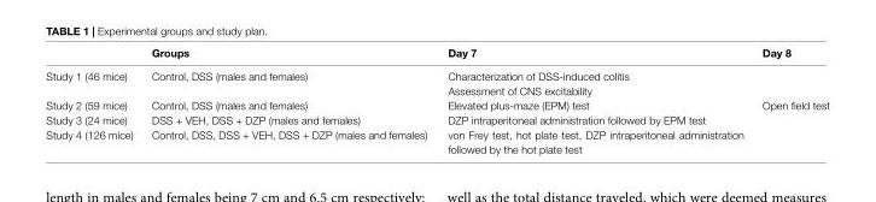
<table><thead><tr><td></td><td>Groups</td><td>Day 7</td><td>Day 8</td></tr></thead><tbody><tr><td rowspan="2">Study 1 (46 mice)</td><td>Control, DSS (males and females)</td><td>Characterization of DSS-induced colitis</td><td></td></tr><tr><td></td><td>Assessment of CNS excitability</td><td></td></tr><tr><td>Study 2 (59 mice)</td><td>Control, DSS (males and females)</td><td>Elevated plus-maze (EPM) test</td><td>Open field test</td></tr><tr><td>Study 3 (24 mice)</td><td>DSS + VEH, DSS + DZP (males and females)</td><td>DZP intraperitoneal administration followed by EPM test</td><td></td></tr><tr><td>Study 4 (126 mice)</td><td>Control, DSS, DSS + VEH, DSS + DZP (males and females)</td><td>von Frey test, hot plate test, DZP intraperitoneal administration followed by the hot plate test</td><td></td></tr></tbody></table>